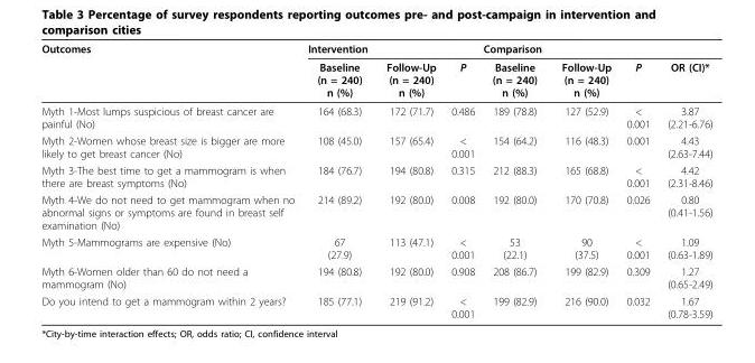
<table><thead><tr><td rowspan="2">Outcomes</td><td colspan="3">Intervention</td><td colspan="3">Comparison</td><td rowspan="2">OR (CI)*</td></tr><tr><td>Baseline (n = 240) n (%)</td><td>Follow-Up (n = 240) n (%)</td><td>P</td><td>Baseline (n = 240) n (%)</td><td>Follow-Up (n = 240) n (%)</td><td>P</td></tr></thead><tbody><tr><td>Myth 1-Most lumps suspicious of breast cancer are painful (No)</td><td>164 (68.3)</td><td>172 (71.7)</td><td>0.486</td><td>189 (78.8)</td><td>127 (52.9)</td><td>&lt; 0.001</td><td>3.87 (2.21-6.76)</td></tr><tr><td>Myth 2-Women whose breast size is bigger are more likely to get breast cancer (No)</td><td>108 (45.0)</td><td>157 (65.4)</td><td>&lt; 0.001</td><td>154 (64.2)</td><td>116 (48.3)</td><td>0.001</td><td>4.43 (2.63-7.44)</td></tr><tr><td>Myth 3-The best time to get a mammogram is when there are breast symptoms (No)</td><td>184 (76.7)</td><td>194 (80.8)</td><td>0.315</td><td>212 (88.3)</td><td>165 (68.8)</td><td>&lt; 0.001</td><td>4.42 (2.31-8.46)</td></tr><tr><td>Myth 4-We do not need to get mammogram when no abnormal signs or symptoms are found in breast self examination (No)</td><td>214 (89.2)</td><td>192 (80.0)</td><td>0.008</td><td>192 (80.0)</td><td>170 (70.8)</td><td>0.026</td><td>0.80 (0.41-1.56)</td></tr><tr><td>Myth 5-Mammograms are expensive (No)</td><td>67 (27.9)</td><td>113 (47.1)</td><td>&lt; 0.001</td><td>53 (22.1)</td><td>90 (37.5)</td><td>&lt; 0.001</td><td>1.09 (0.63-1.89)</td></tr><tr><td>Myth 6-Women older than 60 do not need a mammogram (No)</td><td>194 (80.8)</td><td>192 (80.0)</td><td>0.908</td><td>208 (86.7)</td><td>199 (82.9)</td><td>0.309</td><td>1.27 (0.65-2.49)</td></tr><tr><td>Do you intend to get a mammogram within 2 years?</td><td>185 (77.1)</td><td>219 (91.2)</td><td>&lt; 0.001</td><td>199 (82.9)</td><td>216 (90.0)</td><td>0.032</td><td>1.67 (0.78-3.59)</td></tr></tbody></table>